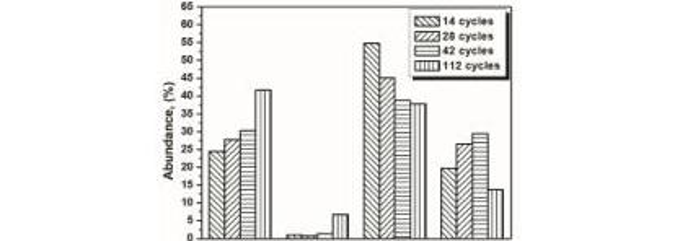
<table><thead><tr><td>Numbers of Cycles</td><td>α-FeOOH</td><td>γ-FeOOH</td><td>Fe<sub>3</sub>O<sub>4</sub></td><td>β-FeOOH</td></tr></thead><tbody><tr><td>14 cycles</td><td>24.49</td><td>0.94</td><td>54.77</td><td>19.80</td></tr><tr><td>28 cycles</td><td>27.69</td><td>0.73</td><td>45.02</td><td>26.56</td></tr><tr><td>42 cycles</td><td>30.28</td><td>1.43</td><td>38.76</td><td>29.52</td></tr><tr><td>112 cycles</td><td>41.66</td><td>6.73</td><td>37.85</td><td>13.75</td></tr></tbody></table>